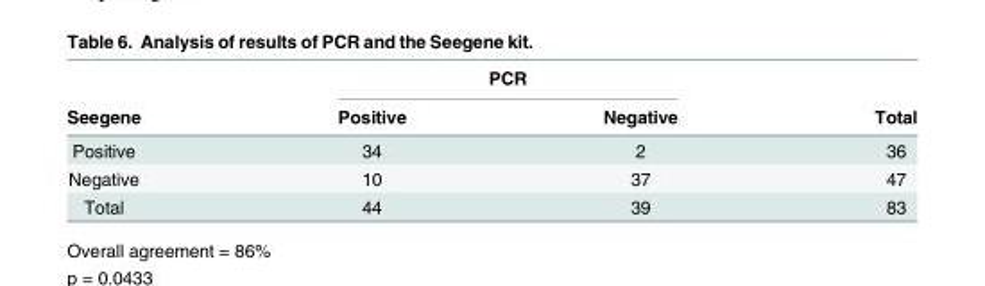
<table><thead><tr><td rowspan="2">Seegene</td><td colspan="2">PCR</td><td rowspan="2">Total</td></tr><tr><td>Positive</td><td>Negative</td></tr></thead><tbody><tr><td>Positive</td><td>34</td><td>2</td><td>36</td></tr><tr><td>Negative</td><td>10</td><td>37</td><td>47</td></tr><tr><td>Total</td><td>44</td><td>39</td><td>83</td></tr></tbody></table>